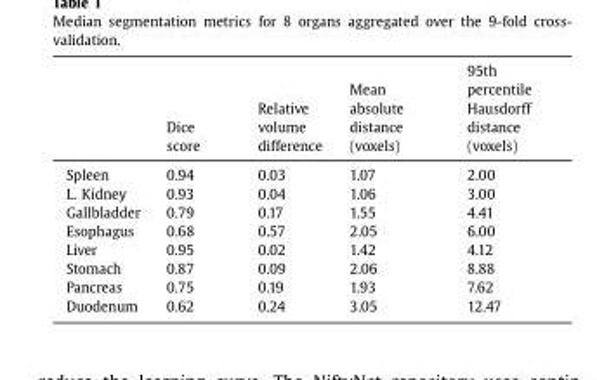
<table><thead><tr><td></td><td>Dice score</td><td>Relative volume difference</td><td>Mean absolute distance (voxels)</td><td>95th percentile Hausdorff distance (voxels)</td></tr></thead><tbody><tr><td>Spleen</td><td>0.94</td><td>0.03</td><td>1.07</td><td>2.00</td></tr><tr><td>L. Kidney</td><td>0.93</td><td>0.04</td><td>1.06</td><td>3.00</td></tr><tr><td>Gallbladder</td><td>0.79</td><td>0.17</td><td>1.55</td><td>4.41</td></tr><tr><td>Esophagus</td><td>0.68</td><td>0.57</td><td>2.05</td><td>6.00</td></tr><tr><td>Liver</td><td>0.95</td><td>0.02</td><td>1.42</td><td>4.12</td></tr><tr><td>Stomach</td><td>0.87</td><td>0.09</td><td>2.06</td><td>8.88</td></tr><tr><td>Pancreas</td><td>0.75</td><td>0.19</td><td>1.93</td><td>7.62</td></tr><tr><td>Duodenum</td><td>0.62</td><td>0.24</td><td>3.05</td><td>12.47</td></tr></tbody></table>